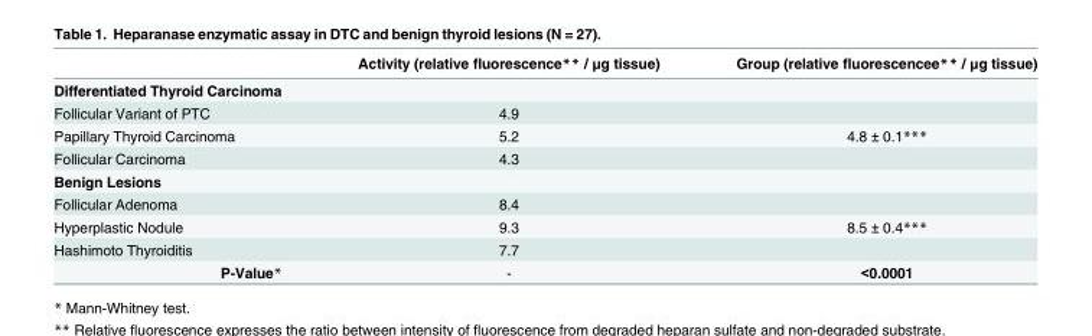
<table><thead><tr><td></td><td>Activity (relative fluorescence** / μg tissue)</td><td>Group (relative fluorescencee** / μg tissue)</td></tr></thead><tbody><tr><td colspan="3">Differentiated Thyroid Carcinoma</td></tr><tr><td>Follicular Variant of PTC</td><td>4.9</td><td></td></tr><tr><td>Papillary Thyroid Carcinoma</td><td>5.2</td><td>4.8 ± 0.1***</td></tr><tr><td>Follicular Carcinoma</td><td>4.3</td><td></td></tr><tr><td colspan="3">Benign Lesions</td></tr><tr><td>Follicular Adenoma</td><td>8.4</td><td></td></tr><tr><td>Hyperplastic Nodule</td><td>9.3</td><td>8.5 ± 0.4***</td></tr><tr><td>Hashimoto Thyroiditis</td><td>7.7</td><td></td></tr><tr><td>P-Value*</td><td>-</td><td>&lt;0.0001</td></tr></tbody></table>